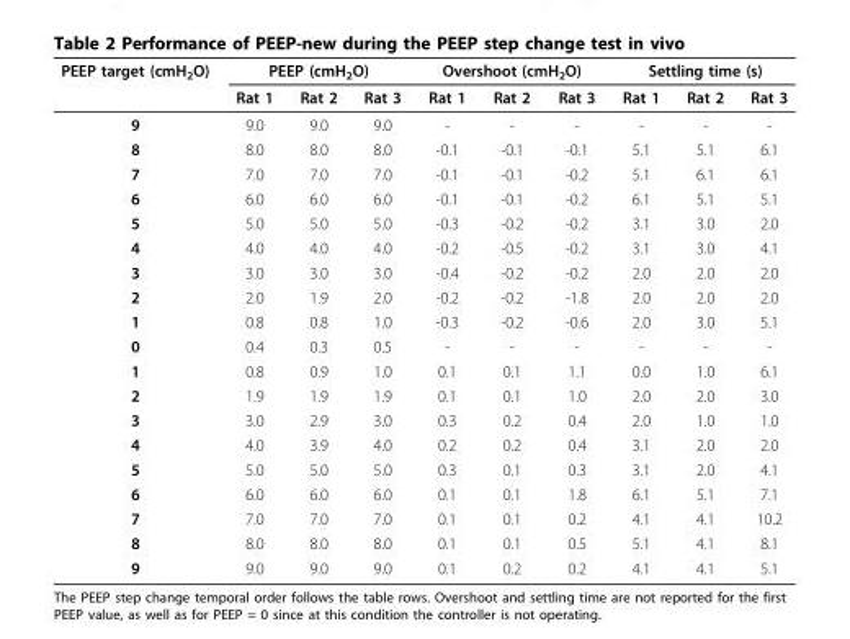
<table><thead><tr><td rowspan="2">PEEP target (cmH<sub>2</sub>O)</td><td colspan="3">PEEP (cmH<sub>2</sub>O)</td><td colspan="3">Overshoot (cmH<sub>2</sub>O)</td><td colspan="3">Settling time (s)</td></tr><tr><td>Rat 1</td><td>Rat 2</td><td>Rat 3</td><td>Rat 1</td><td>Rat 2</td><td>Rat 3</td><td>Rat 1</td><td>Rat 2</td><td>Rat 3</td></tr></thead><tbody><tr><td>9</td><td>9.0</td><td>9.0</td><td>9.0</td><td>-</td><td>-</td><td>-</td><td>-</td><td>-</td><td>-</td></tr><tr><td>8</td><td>8.0</td><td>8.0</td><td>8.0</td><td>-0.1</td><td>-0.1</td><td>-0.1</td><td>5.1</td><td>5.1</td><td>6.1</td></tr><tr><td>7</td><td>7.0</td><td>7.0</td><td>7.0</td><td>-0.1</td><td>-0.1</td><td>-0.2</td><td>5.1</td><td>6.1</td><td>6.1</td></tr><tr><td>6</td><td>6.0</td><td>6.0</td><td>6.0</td><td>-0.1</td><td>-0.1</td><td>-0.2</td><td>6.1</td><td>5.1</td><td>5.1</td></tr><tr><td>5</td><td>5.0</td><td>5.0</td><td>5.0</td><td>-0.3</td><td>-0.2</td><td>-0.2</td><td>3.1</td><td>3.0</td><td>2.0</td></tr><tr><td>4</td><td>4.0</td><td>4.0</td><td>4.0</td><td>-0.2</td><td>-0.5</td><td>-0.2</td><td>3.1</td><td>3.0</td><td>4.1</td></tr><tr><td>3</td><td>3.0</td><td>3.0</td><td>3.0</td><td>-0.4</td><td>-0.2</td><td>-0.2</td><td>2.0</td><td>2.0</td><td>2.0</td></tr><tr><td>2</td><td>2.0</td><td>1.9</td><td>2.0</td><td>-0.2</td><td>-0.2</td><td>-1.8</td><td>2.0</td><td>2.0</td><td>2.0</td></tr><tr><td>1</td><td>0.8</td><td>0.8</td><td>1.0</td><td>-0.3</td><td>-0.2</td><td>-0.6</td><td>2.0</td><td>3.0</td><td>5.1</td></tr><tr><td>0</td><td>0.4</td><td>0.3</td><td>0.5</td><td>-</td><td>-</td><td>-</td><td>-</td><td>-</td><td>-</td></tr><tr><td>1</td><td>0.8</td><td>0.9</td><td>1.0</td><td>0.1</td><td>0.1</td><td>1.1</td><td>0.0</td><td>1.0</td><td>6.1</td></tr><tr><td>2</td><td>1.9</td><td>1.9</td><td>1.9</td><td>0.1</td><td>0.1</td><td>1.0</td><td>2.0</td><td>2.0</td><td>3.0</td></tr><tr><td>3</td><td>3.0</td><td>2.9</td><td>3.0</td><td>0.3</td><td>0.2</td><td>0.4</td><td>2.0</td><td>1.0</td><td>1.0</td></tr><tr><td>4</td><td>4.0</td><td>3.9</td><td>4.0</td><td>0.2</td><td>0.2</td><td>0.4</td><td>3.1</td><td>2.0</td><td>2.0</td></tr><tr><td>5</td><td>5.0</td><td>5.0</td><td>5.0</td><td>0.3</td><td>0.1</td><td>0.3</td><td>3.1</td><td>2.0</td><td>4.1</td></tr><tr><td>6</td><td>6.0</td><td>6.0</td><td>6.0</td><td>0.1</td><td>0.1</td><td>1.8</td><td>6.1</td><td>5.1</td><td>7.1</td></tr><tr><td>7</td><td>7.0</td><td>7.0</td><td>7.0</td><td>0.1</td><td>0.1</td><td>0.2</td><td>4.1</td><td>4.1</td><td>10.2</td></tr><tr><td>8</td><td>8.0</td><td>8.0</td><td>8.0</td><td>0.1</td><td>0.1</td><td>0.5</td><td>5.1</td><td>4.1</td><td>8.1</td></tr><tr><td>9</td><td>9.0</td><td>9.0</td><td>9.0</td><td>0.1</td><td>0.2</td><td>0.2</td><td>4.1</td><td>4.1</td><td>5.1</td></tr></tbody></table>